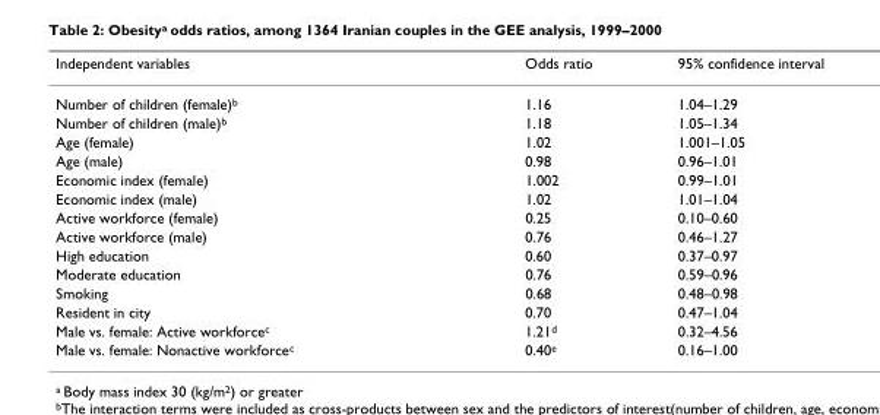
<table><thead><tr><td>Independent variables</td><td>Odds ratio</td><td>95% confidence interval</td></tr></thead><tbody><tr><td>Number of children (female)<sup>b</sup></td><td>1.16</td><td>1.04–1.29</td></tr><tr><td>Number of children (male)<sup>b</sup></td><td>1.18</td><td>1.05–1.34</td></tr><tr><td>Age (female)</td><td>1.02</td><td>1.001–1.05</td></tr><tr><td>Age (male)</td><td>0.98</td><td>0.96–1.01</td></tr><tr><td>Economic index (female)</td><td>1.002</td><td>0.99–1.01</td></tr><tr><td>Economic index (male)</td><td>1.02</td><td>1.01–1.04</td></tr><tr><td>Active workforce (female)</td><td>0.25</td><td>0.10–0.60</td></tr><tr><td>Active workforce (male)</td><td>0.76</td><td>0.46–1.27</td></tr><tr><td>High education</td><td>0.60</td><td>0.37–0.97</td></tr><tr><td>Moderate education</td><td>0.76</td><td>0.59–0.96</td></tr><tr><td>Smoking</td><td>0.68</td><td>0.48–0.98</td></tr><tr><td>Resident in city</td><td>0.70</td><td>0.47–1.04</td></tr><tr><td>Male vs. female: Active workforce<sup>c</sup></td><td>1.21<sup>d</sup></td><td>0.32–4.56</td></tr><tr><td>Male vs. female: Nonactive workforce<sup>c</sup></td><td>0.40<sup>e</sup></td><td>0.16–1.00</td></tr></tbody></table>